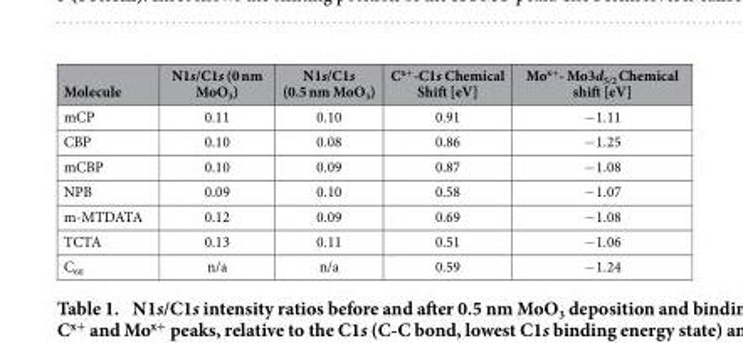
<table><thead><tr><td>Molecule</td><td>N1s/C1s (0 nm MoO<sub>3</sub>)</td><td>N1s/C1s (0.5 nm MoO<sub>3</sub>)</td><td>C<sup>x+</sup>-C1s Chemical Shift [eV]</td><td>Mo<sup>x+</sup>- Mo3d<sub>5/2</sub> Chemical shift [eV]</td></tr></thead><tbody><tr><td>mCP</td><td>0.11</td><td>0.10</td><td>0.91</td><td>− 1.11</td></tr><tr><td>CBP</td><td>0.10</td><td>0.08</td><td>0.86</td><td>− 1.25</td></tr><tr><td>mCBP</td><td>0.10</td><td>0.09</td><td>0.87</td><td>− 1.08</td></tr><tr><td>NPB</td><td>0.09</td><td>0.10</td><td>0.58</td><td>− 1.07</td></tr><tr><td>m-MTDATA</td><td>0.12</td><td>0.09</td><td>0.69</td><td>− 1.08</td></tr><tr><td>TCTA</td><td>0.13</td><td>0.11</td><td>0.51</td><td>− 1.06</td></tr><tr><td>C<sub>60</sub></td><td>n/a</td><td>n/a</td><td>0.59</td><td>− 1.24</td></tr></tbody></table>